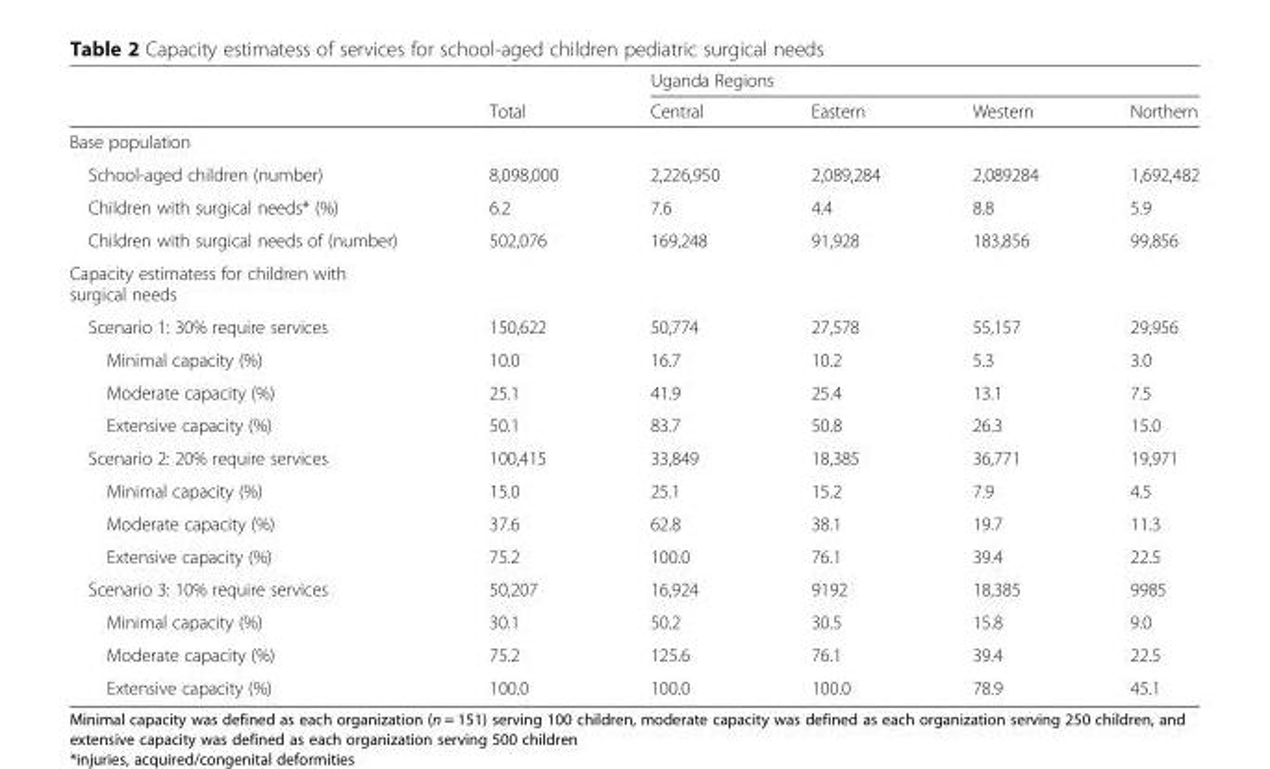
<table><thead><tr><td rowspan="2"></td><td rowspan="2">Total</td><td colspan="4">Uganda Regions</td></tr><tr><td>Central</td><td>Eastern</td><td>Western</td><td>Northern</td></tr></thead><tbody><tr><td colspan="6">Base population</td></tr><tr><td>School-aged children (number)</td><td>8,098,000</td><td>2,226,950</td><td>2,089,284</td><td>2,089284</td><td>1,692,482</td></tr><tr><td>Children with surgical needs* (%)</td><td>6.2</td><td>7.6</td><td>4.4</td><td>8.8</td><td>5.9</td></tr><tr><td>Children with surgical needs of (number)</td><td>502,076</td><td>169,248</td><td>91,928</td><td>183,856</td><td>99,856</td></tr><tr><td colspan="6">Capacity estimatess for children with surgical needs</td></tr><tr><td>Scenario 1: 30% require services</td><td>150,622</td><td>50,774</td><td>27,578</td><td>55,157</td><td>29,956</td></tr><tr><td>Minimal capacity (%)</td><td>10.0</td><td>16.7</td><td>10.2</td><td>5.3</td><td>3.0</td></tr><tr><td>Moderate capacity (%)</td><td>25.1</td><td>41.9</td><td>25.4</td><td>13.1</td><td>7.5</td></tr><tr><td>Extensive capacity (%)</td><td>50.1</td><td>83.7</td><td>50.8</td><td>26.3</td><td>15.0</td></tr><tr><td>Scenario 2: 20% require services</td><td>100,415</td><td>33,849</td><td>18,385</td><td>36,771</td><td>19,971</td></tr><tr><td>Minimal capacity (%)</td><td>15.0</td><td>25.1</td><td>15.2</td><td>7.9</td><td>4.5</td></tr><tr><td>Moderate capacity (%)</td><td>37.6</td><td>62.8</td><td>38.1</td><td>19.7</td><td>11.3</td></tr><tr><td>Extensive capacity (%)</td><td>75.2</td><td>100.0</td><td>76.1</td><td>39.4</td><td>22.5</td></tr><tr><td>Scenario 3: 10% require services</td><td>50,207</td><td>16,924</td><td>9192</td><td>18,385</td><td>9985</td></tr><tr><td>Minimal capacity (%)</td><td>30.1</td><td>50.2</td><td>30.5</td><td>15.8</td><td>9.0</td></tr><tr><td>Moderate capacity (%)</td><td>75.2</td><td>125.6</td><td>76.1</td><td>39.4</td><td>22.5</td></tr><tr><td>Extensive capacity (%)</td><td>100.0</td><td>100.0</td><td>100.0</td><td>78.9</td><td>45.1</td></tr></tbody></table>